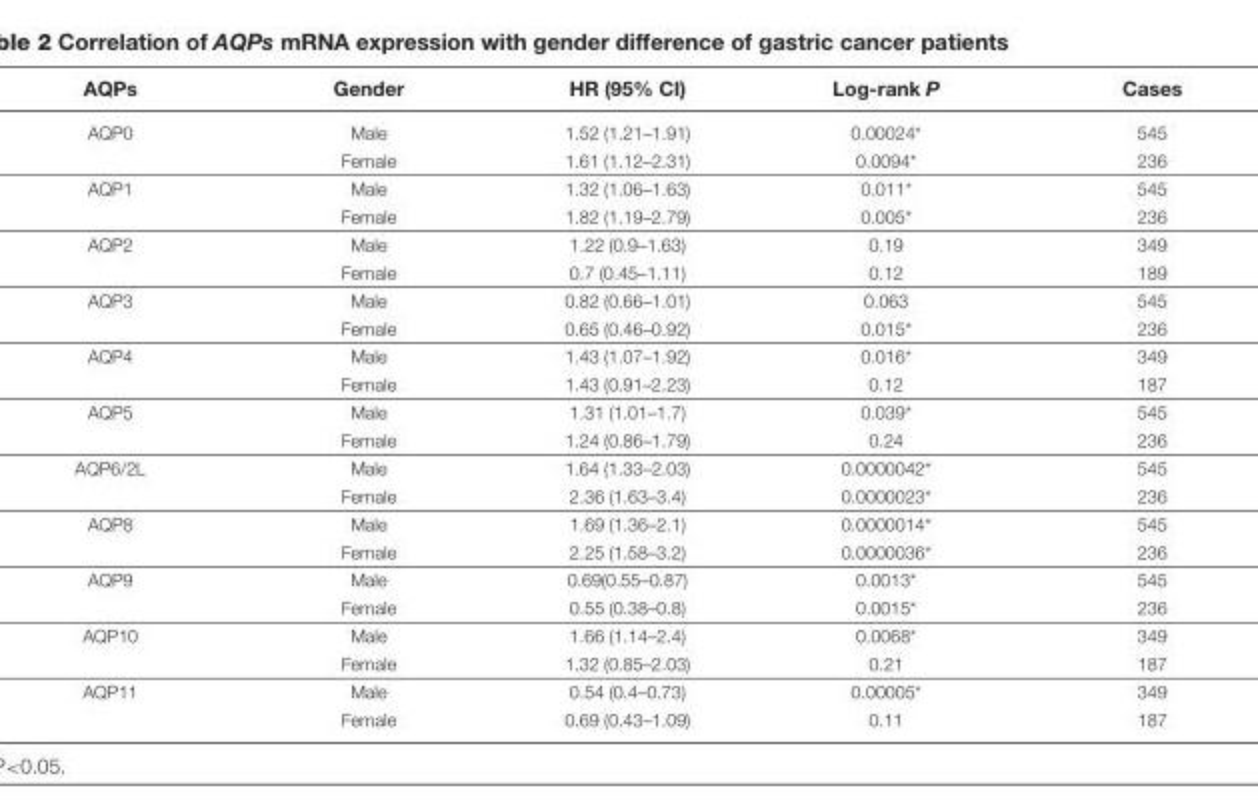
<table><thead><tr><td>AQPs</td><td>Gender</td><td>HR (95% CI)</td><td>Log-rank P</td><td>Cases</td></tr></thead><tbody><tr><td rowspan="2">AQP0</td><td>Male</td><td>1.52 (1.21–1.91)</td><td>0.00024*</td><td>545</td></tr><tr><td>Female</td><td>1.61 (1.12–2.31)</td><td>0.0094*</td><td>236</td></tr><tr><td rowspan="2">AQP1</td><td>Male</td><td>1.32 (1.06–1.63)</td><td>0.011*</td><td>545</td></tr><tr><td>Female</td><td>1.82 (1.19–2.79)</td><td>0.005*</td><td>236</td></tr><tr><td rowspan="2">AQP2</td><td>Male</td><td>1.22 (0.9–1.63)</td><td>0.19</td><td>349</td></tr><tr><td>Female</td><td>0.7 (0.45–1.11)</td><td>0.12</td><td>189</td></tr><tr><td rowspan="2">AQP3</td><td>Male</td><td>0.82 (0.66–1.01)</td><td>0.063</td><td>545</td></tr><tr><td>Female</td><td>0.65 (0.46–0.92)</td><td>0.015*</td><td>236</td></tr><tr><td rowspan="2">AQP4</td><td>Male</td><td>1.43 (1.07–1.92)</td><td>0.016*</td><td>349</td></tr><tr><td>Female</td><td>1.43 (0.91–2.23)</td><td>0.12</td><td>187</td></tr><tr><td rowspan="2">AQP5</td><td>Male</td><td>1.31 (1.01–1.7)</td><td>0.039*</td><td>545</td></tr><tr><td>Female</td><td>1.24 (0.86–1.79)</td><td>0.24</td><td>236</td></tr><tr><td rowspan="2">AQP6/2L</td><td>Male</td><td>1.64 (1.33–2.03)</td><td>0.0000042*</td><td>545</td></tr><tr><td>Female</td><td>2.36 (1.63–3.4)</td><td>0.0000023*</td><td>236</td></tr><tr><td rowspan="2">AQP8</td><td>Male</td><td>1.69 (1.36–2.1)</td><td>0.0000014*</td><td>545</td></tr><tr><td>Female</td><td>2.25 (1.58–3.2)</td><td>0.0000036*</td><td>236</td></tr><tr><td rowspan="2">AQP9</td><td>Male</td><td>0.69(0.55–0.87)</td><td>0.0013*</td><td>545</td></tr><tr><td>Female</td><td>0.55 (0.38–0.8)</td><td>0.0015*</td><td>236</td></tr><tr><td rowspan="2">AQP10</td><td>Male</td><td>1.66 (1.14–2.4)</td><td>0.0068*</td><td>349</td></tr><tr><td>Female</td><td>1.32 (0.85–2.03)</td><td>0.21</td><td>187</td></tr><tr><td rowspan="2">AQP11</td><td>Male</td><td>0.54 (0.4–0.73)</td><td>0.00005*</td><td>349</td></tr><tr><td>Female</td><td>0.69 (0.43–1.09)</td><td>0.11</td><td>187</td></tr></tbody></table>